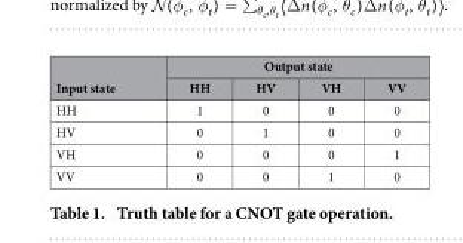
<table><thead><tr><td rowspan="2">Input state</td><td colspan="4">Output state</td></tr><tr><td>HH</td><td>HV</td><td>VH</td><td>VV</td></tr></thead><tbody><tr><td>HH</td><td>1</td><td>0</td><td>0</td><td>0</td></tr><tr><td>HV</td><td>0</td><td>1</td><td>0</td><td>0</td></tr><tr><td>VH</td><td>0</td><td>0</td><td>0</td><td>1</td></tr><tr><td>VV</td><td>0</td><td>0</td><td>1</td><td>0</td></tr></tbody></table>